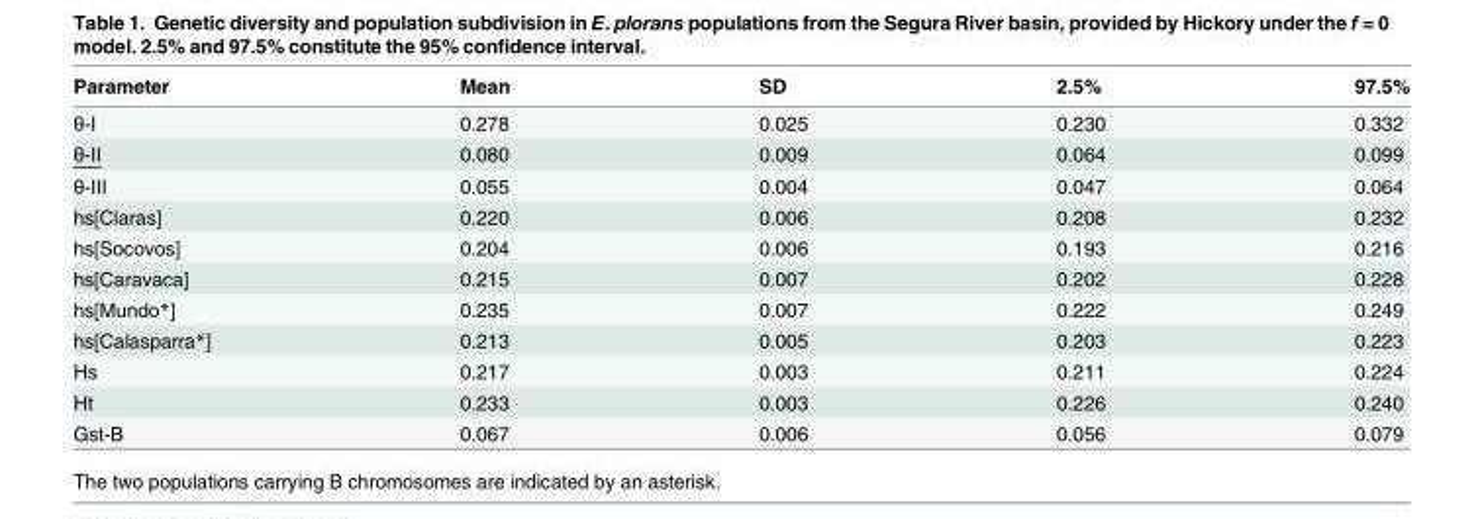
<table><thead><tr><td>Parameter</td><td>Mean</td><td>SD</td><td>2.5%</td><td>97.5%</td></tr></thead><tbody><tr><td>θ-I</td><td>0.278</td><td>0.025</td><td>0.230</td><td>0.332</td></tr><tr><td>θ-II</td><td>0.080</td><td>0.009</td><td>0.064</td><td>0.099</td></tr><tr><td>θ-III</td><td>0.055</td><td>0.004</td><td>0.047</td><td>0.064</td></tr><tr><td>hs[Claras]</td><td>0.220</td><td>0.006</td><td>0.208</td><td>0.232</td></tr><tr><td>hs[Socovos]</td><td>0.204</td><td>0.006</td><td>0.193</td><td>0.216</td></tr><tr><td>hs[Caravaca]</td><td>0.215</td><td>0.007</td><td>0.202</td><td>0.228</td></tr><tr><td>hs[Mundo*]</td><td>0.235</td><td>0.007</td><td>0.222</td><td>0.249</td></tr><tr><td>hs[Calasparra*]</td><td>0.213</td><td>0.005</td><td>0.203</td><td>0.223</td></tr><tr><td>Hs</td><td>0.217</td><td>0.003</td><td>0.211</td><td>0.224</td></tr><tr><td>Ht</td><td>0.233</td><td>0.003</td><td>0.226</td><td>0.240</td></tr><tr><td>Gst-B</td><td>0.067</td><td>0.006</td><td>0.056</td><td>0.079</td></tr></tbody></table>